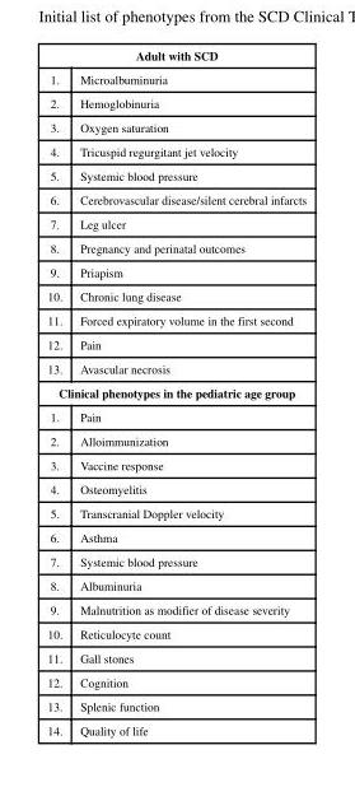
<table><tbody><tr><td colspan="2">Adult with SCD</td></tr><tr><td>1.</td><td>Microalbuminuria</td></tr><tr><td>2.</td><td>Hemoglobinuria</td></tr><tr><td>3.</td><td>Oxygen saturation</td></tr><tr><td>4.</td><td>Tricuspid regurgitant jet velocity</td></tr><tr><td>5.</td><td>Systemic blood pressure</td></tr><tr><td>6.</td><td>Cerebrovascular disease/silent cerebral infarcts</td></tr><tr><td>7.</td><td>Leg ulcer</td></tr><tr><td>8.</td><td>Pregnancy and perinatal outcomes</td></tr><tr><td>9.</td><td>Priapism</td></tr><tr><td>10.</td><td>Chronic lung disease</td></tr><tr><td>11.</td><td>Forced expiratory volume in the first second</td></tr><tr><td>12.</td><td>Pain</td></tr><tr><td>13.</td><td>Avascular necrosis</td></tr><tr><td colspan="2">Clinical phenotypes in the pediatric age group</td></tr><tr><td>1.</td><td>Pain</td></tr><tr><td>2.</td><td>Alloimmunization</td></tr><tr><td>3.</td><td>Vaccine response</td></tr><tr><td>4.</td><td>Osteomyelitis</td></tr><tr><td>5.</td><td>Transcranial Doppler velocity</td></tr><tr><td>6.</td><td>Asthma</td></tr><tr><td>7.</td><td>Systemic blood pressure</td></tr><tr><td>8.</td><td>Albuminuria</td></tr><tr><td>9.</td><td>Malnutrition as modifier of disease severity</td></tr><tr><td>10.</td><td>Reticulocyte count</td></tr><tr><td>11.</td><td>Gall stones</td></tr><tr><td>12.</td><td>Cognition</td></tr><tr><td>13.</td><td>Splenic function</td></tr><tr><td>14.</td><td>Quality of life</td></tr></tbody></table>